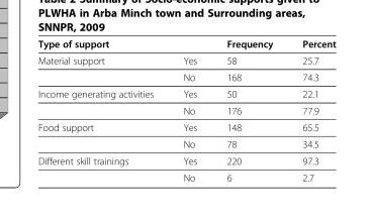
<table><thead><tr><td>Type of support</td><td></td><td>Frequency</td><td>Percent</td></tr></thead><tbody><tr><td rowspan="2">Material support</td><td>Yes</td><td>58</td><td>25.7</td></tr><tr><td>No</td><td>168</td><td>74.3</td></tr><tr><td rowspan="2">Income generating activities</td><td>Yes</td><td>50</td><td>22.1</td></tr><tr><td>No</td><td>176</td><td>77.9</td></tr><tr><td rowspan="2">Food support</td><td>Yes</td><td>148</td><td>65.5</td></tr><tr><td>No</td><td>78</td><td>34.5</td></tr><tr><td rowspan="2">Different skill trainings</td><td>Yes</td><td>220</td><td>97.3</td></tr><tr><td>No</td><td>6</td><td>2.7</td></tr></tbody></table>